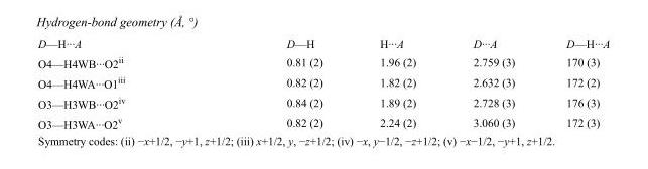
<table><tbody><tr><td>D—H···A</td><td>D—H</td><td>H···A</td><td>D···A</td><td>D—H···A</td></tr><tr><td>O4—H4WB···O2<sup>ii</sup></td><td>0.81 (2)</td><td>1.96 (2)</td><td>2.759 (3)</td><td>170 (3)</td></tr><tr><td>O4—H4WA···O1<sup>iii</sup></td><td>0.82 (2)</td><td>1.82 (2)</td><td>2.632 (3)</td><td>172 (2)</td></tr><tr><td>O3—H3WB···O2<sup>iv</sup></td><td>0.84 (2)</td><td>1.89 (2)</td><td>2.728 (3)</td><td>176 (3)</td></tr><tr><td>O3—H3WA···O2<sup>v</sup></td><td>0.82 (2)</td><td>2.24 (2)</td><td>3.060 (3)</td><td>172 (3)</td></tr></tbody></table>